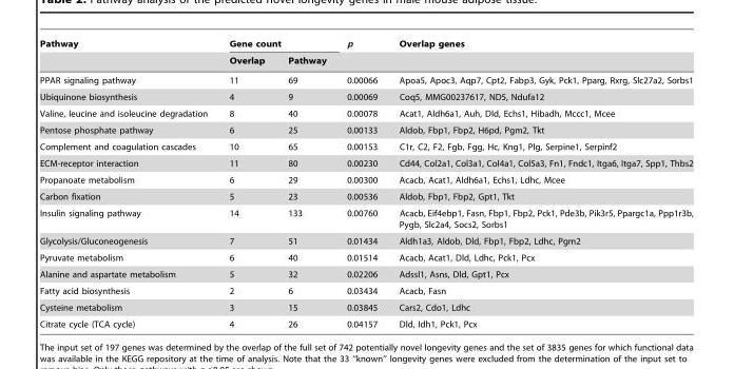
<table><thead><tr><td rowspan="2">Pathway</td><td colspan="2">Gene count</td><td rowspan="2">p</td><td rowspan="2">Overlap genes</td></tr><tr><td>Overlap</td><td>Pathway</td></tr></thead><tbody><tr><td>PPAR signaling pathway</td><td>11</td><td>69</td><td>0.00066</td><td>Apoa5, Apoc3, Aqp7, Cpt2, Fabp3, Gyk, Pck1, Pparg, Rxrg, Slc27a2, Sorbs1</td></tr><tr><td>Ubiquinone biosynthesis</td><td>4</td><td>9</td><td>0.00069</td><td>Coq5, MMG00237617, ND5, Ndufa12</td></tr><tr><td>Valine, leucine and isoleucine degradation</td><td>8</td><td>40</td><td>0.00078</td><td>Acat1, Aldh6a1, Auh, Dld, Echs1, Hibadh, Mccc1, Mcee</td></tr><tr><td>Pentose phosphate pathway</td><td>6</td><td>25</td><td>0.00133</td><td>Aldob, Fbp1, Fbp2, H6pd, Pgm2, Tkt</td></tr><tr><td>Complement and coagulation cascades</td><td>10</td><td>65</td><td>0.00153</td><td>C1r, C2, F2, Fgb, Fgg, Hc, Kng1, Plg, Serpine1, Serpinf2</td></tr><tr><td>ECM-receptor interaction</td><td>11</td><td>80</td><td>0.00230</td><td>Cd44, Col2a1, Col3a1, Col4a1, Col5a3, Fn1, Fndc1, Itga6, Itga7, Spp1, Thbs2</td></tr><tr><td>Propanoate metabolism</td><td>6</td><td>29</td><td>0.00300</td><td>Acacb, Acat1, Aldh6a1, Echs1, Ldhc, Mcee</td></tr><tr><td>Carbon fixation</td><td>5</td><td>23</td><td>0.00536</td><td>Aldob, Fbp1, Fbp2, Gpt1, Tkt</td></tr><tr><td>Insulin signaling pathway</td><td>14</td><td>133</td><td>0.00760</td><td>Acacb, Eif4ebp1, Fasn, Fbp1, Fbp2, Pck1, Pde3b, Pik3r5, Ppargc1a, Ppp1r3b, Pygb, Slc2a4, Socs2, Sorbs1</td></tr><tr><td>Glycolysis/Gluconeogenesis</td><td>7</td><td>51</td><td>0.01434</td><td>Aldh1a3, Aldob, Dld, Fbp1, Fbp2, Ldhc, Pgm2</td></tr><tr><td>Pyruvate metabolism</td><td>6</td><td>40</td><td>0.01514</td><td>Acacb, Acat1, Dld, Ldhc, Pck1, Pcx</td></tr><tr><td>Alanine and aspartate metabolism</td><td>5</td><td>32</td><td>0.02206</td><td>Adssl1, Asns, Dld, Gpt1, Pcx</td></tr><tr><td>Fatty acid biosynthesis</td><td>2</td><td>6</td><td>0.03434</td><td>Acacb, Fasn</td></tr><tr><td>Cysteine metabolism</td><td>3</td><td>15</td><td>0.03845</td><td>Cars2, Cdo1, Ldhc</td></tr><tr><td>Citrate cycle (TCA cycle)</td><td>4</td><td>26</td><td>0.04157</td><td>Dld, Idh1, Pck1, Pcx</td></tr></tbody></table>